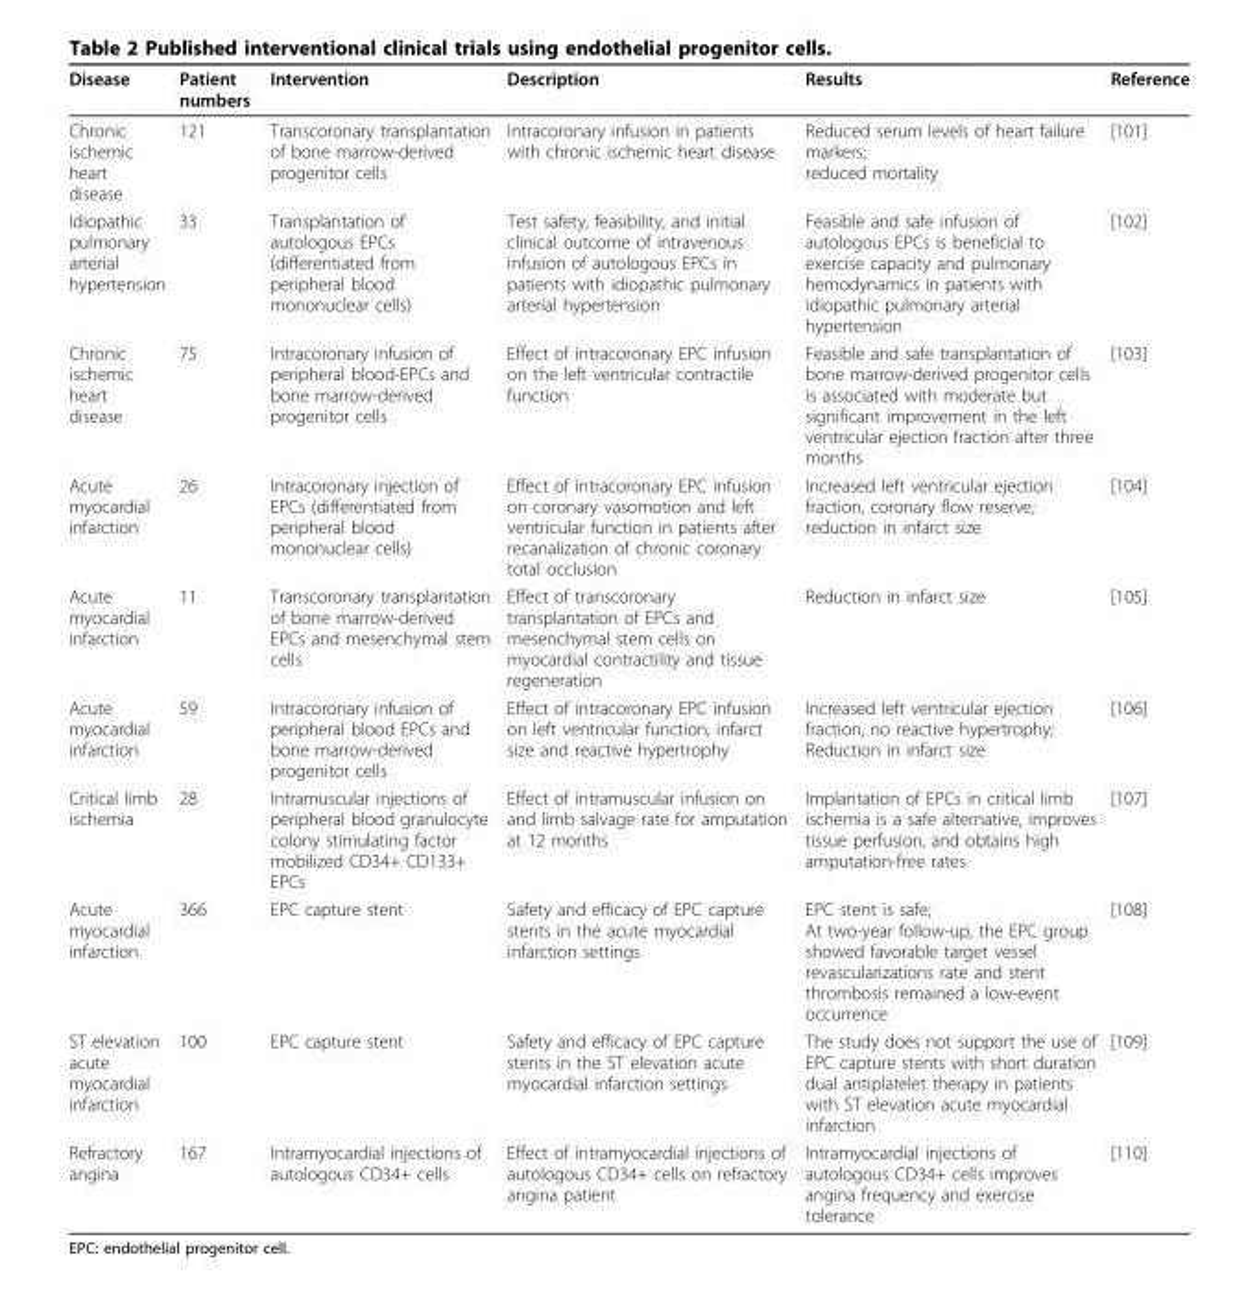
<table><thead><tr><td>Disease</td><td>Patient numbers</td><td>Intervention</td><td>Description</td><td>Results</td><td>Reference</td></tr></thead><tbody><tr><td>Chronic ischemic heart disease</td><td>121</td><td>Transcoronary transplantation of bone marrow-derived progenitor cells</td><td>Intracoronary infusion in patients with chronic ischemic heart disease</td><td>Reduced serum levels of heart failure markers; reduced mortality</td><td>[101]</td></tr><tr><td>Idiopathic pulmonary arterial hypertension</td><td>33</td><td>Transplantation of autologous EPCs (differentiated from peripheral blood mononuclear cells)</td><td>Test safety, feasibility, and initial clinical outcome of intravenous infusion of autologous EPCs in patients with idiopathic pulmonary arterial hypertension</td><td>Feasible and safe infusion of autologous EPCs is beneficial to exercise capacity and pulmonary hemodynamics in patients with idiopathic pulmonary arterial hypertension</td><td>[102]</td></tr><tr><td>Chronic ischemic heart disease</td><td>75</td><td>Intracoronary infusion of peripheral blood-EPCs and bone marrow-derived progenitor cells</td><td>Effect of intracoronary EPC infusion on the left ventricular contractile function</td><td>Feasible and safe transplantation of bone marrow-derived progenitor cells is associated with moderate but significant improvement in the left ventricular ejection fraction after three months</td><td>[103]</td></tr><tr><td>Acute myocardial infarction</td><td>26</td><td>Intracoronary injection of EPCs (differentiated from peripheral blood mononuclear cells)</td><td>Effect of intracoronary EPC infusion on coronary vasomotion and left ventricular function in patients after recanalization of chronic coronary total occlusion</td><td>Increased left ventricular ejection fraction, coronary flow reserve; reduction in infarct size</td><td>[104]</td></tr><tr><td>Acute myocardial infarction</td><td>11</td><td>Transcoronary transplantation of bone marrow-derived EPCs and mesenchymal stem cells</td><td>Effect of transcoronary transplantation of EPCs and mesenchymal stem cells on myocardial contractility and tissue regeneration</td><td>Reduction in infarct size</td><td>[105]</td></tr><tr><td>Acute myocardial infarction</td><td>59</td><td>Intracoronary infusion of peripheral blood EPCs and bone marrow-derived progenitor cells</td><td>Effect of intracoronary EPC infusion on left ventricular function, infarct size and reactive hypertrophy</td><td>Increased left ventricular ejection fraction, no reactive hypertrophy; Reduction in infarct size</td><td>[106]</td></tr><tr><td>Critical limb ischemia</td><td>28</td><td>Intramuscular injections of peripheral blood granulocyte colony stimulating factor mobilized CD34+ CD133+ EPCs</td><td>Effect of intramuscular infusion on and limb salvage rate for amputation at 12 months</td><td>Implantation of EPCs in critical limb ischemia is a safe alternative, improves tissue perfusion, and obtains high amputation-free rates</td><td>[107]</td></tr><tr><td>Acute myocardial infarction</td><td>366</td><td>EPC capture stent</td><td>Safety and efficacy of EPC capture stents in the acute myocardial infarction settings</td><td>EPC stent is safe; At two-year follow-up, the EPC group showed favorable target vessel revascularizations rate and stent thrombosis remained a low-event occurrence</td><td>[108]</td></tr><tr><td>ST elevation acute myocardial infarction</td><td>100</td><td>EPC capture stent</td><td>Safety and efficacy of EPC capture stents in the ST elevation acute myocardial infarction settings</td><td>The study does not support the use of EPC capture stents with short duration dual antiplatelet therapy in patients with ST elevation acute myocardial infarction</td><td>[109]</td></tr><tr><td>Refractory angina</td><td>167</td><td>Intramyocardial injections of autologous CD34+ cells</td><td>Effect of intramyocardial injections of autologous CD34+ cells on refractory angina patient</td><td>Intramyocardial injections of autologous CD34+ cells improves angina frequency and exercise tolerance</td><td>[110]</td></tr></tbody></table>